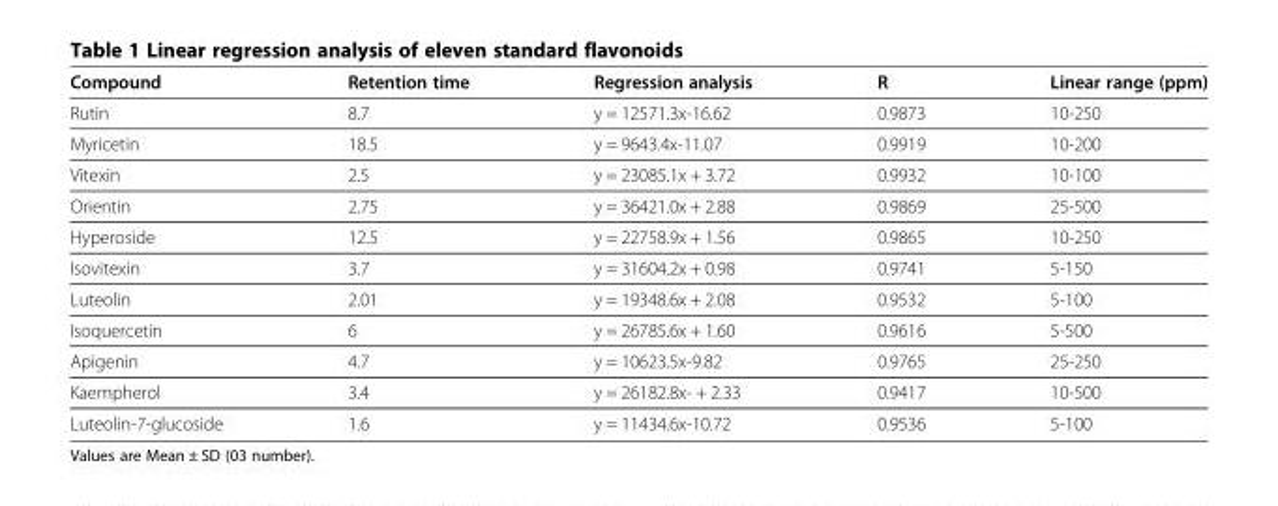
<table><thead><tr><td>Compound</td><td>Retention time</td><td>Regression analysis</td><td>R</td><td>Linear range (ppm)</td></tr></thead><tbody><tr><td>Rutin</td><td>8.7</td><td>y = 12571.3x-16.62</td><td>0.9873</td><td>10-250</td></tr><tr><td>Myricetin</td><td>18.5</td><td>y = 9643.4x-11.07</td><td>0.9919</td><td>10-200</td></tr><tr><td>Vitexin</td><td>2.5</td><td>y = 23085.1x + 3.72</td><td>0.9932</td><td>10-100</td></tr><tr><td>Orientin</td><td>2.75</td><td>y = 36421.0x + 2.88</td><td>0.9869</td><td>25-500</td></tr><tr><td>Hyperoside</td><td>12.5</td><td>y = 22758.9x + 1.56</td><td>0.9865</td><td>10-250</td></tr><tr><td>Isovitexin</td><td>3.7</td><td>y = 31604.2x + 0.98</td><td>0.9741</td><td>5-150</td></tr><tr><td>Luteolin</td><td>2.01</td><td>y = 19348.6x + 2.08</td><td>0.9532</td><td>5-100</td></tr><tr><td>Isoquercetin</td><td>6</td><td>y = 26785.6x + 1.60</td><td>0.9616</td><td>5-500</td></tr><tr><td>Apigenin</td><td>4.7</td><td>y = 10623.5x-9.82</td><td>0.9765</td><td>25-250</td></tr><tr><td>Kaempherol</td><td>3.4</td><td>y = 26182.8x- + 2.33</td><td>0.9417</td><td>10-500</td></tr><tr><td>Luteolin-7-glucoside</td><td>1.6</td><td>y = 11434.6x-10.72</td><td>0.9536</td><td>5-100</td></tr></tbody></table>